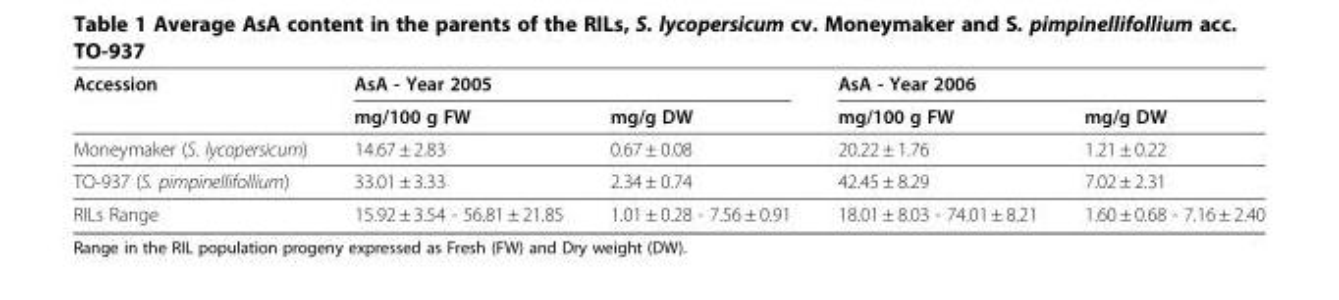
<table><thead><tr><td rowspan="2">Accession</td><td colspan="2">AsA - Year 2005</td><td colspan="2">AsA - Year 2006</td></tr><tr><td>mg/100 g FW</td><td>mg/g DW</td><td>mg/100 g FW</td><td>mg/g DW</td></tr></thead><tbody><tr><td>Moneymaker (S. lycopersicum)</td><td>14.67 ± 2.83</td><td>0.67 ± 0.08</td><td>20.22 ± 1.76</td><td>1.21 ± 0.22</td></tr><tr><td>TO-937 (S. pimpinellifollium)</td><td>33.01 ± 3.33</td><td>2.34 ± 0.74</td><td>42.45 ± 8.29</td><td>7.02 ± 2.31</td></tr><tr><td>RILs Range</td><td>15.92 ± 3.54 - 56.81 ± 21.85</td><td>1.01 ± 0.28 - 7.56 ± 0.91</td><td>18.01 ± 8.03 - 74.01 ± 8.21</td><td>1.60 ± 0.68 - 7.16 ± 2.40</td></tr></tbody></table>